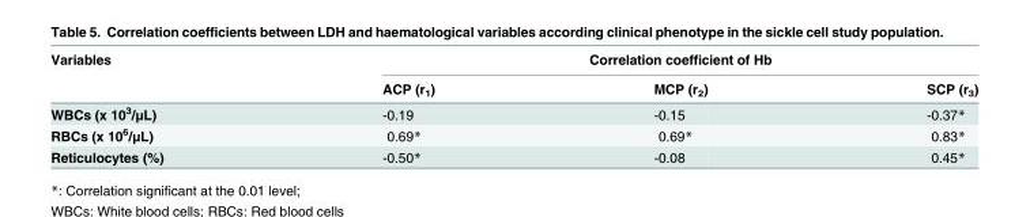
<table><thead><tr><td rowspan="2">Variables</td><td colspan="3">Correlation coefficient of Hb</td></tr><tr><td>ACP (r<sub>1</sub>)</td><td>MCP (r<sub>2</sub>)</td><td>SCP (r<sub>3</sub>)</td></tr></thead><tbody><tr><td>WBCs (x 10<sup>3</sup>/μL)</td><td>-0.19</td><td>-0.15</td><td>-0.37*</td></tr><tr><td>RBCs (x 10<sup>6</sup>/μL)</td><td>0.69*</td><td>0.69*</td><td>0.83*</td></tr><tr><td>Reticulocytes (%)</td><td>-0.50*</td><td>-0.08</td><td>0.45*</td></tr></tbody></table>